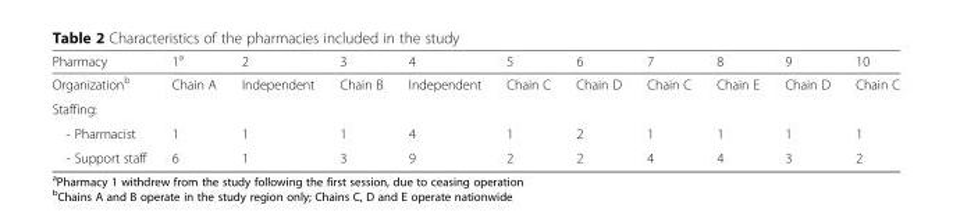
<table><thead><tr><td>Pharmacy</td><td>1<sup>a</sup></td><td>2</td><td>3</td><td>4</td><td>5</td><td>6</td><td>7</td><td>8</td><td>9</td><td>10</td></tr></thead><tbody><tr><td>Organization<sup>b</sup></td><td>Chain A</td><td>Independent</td><td>Chain B</td><td>Independent</td><td>Chain C</td><td>Chain D</td><td>Chain C</td><td>Chain E</td><td>Chain D</td><td>Chain C</td></tr><tr><td colspan="11">Staffing:</td></tr><tr><td>- Pharmacist</td><td>1</td><td>1</td><td>1</td><td>4</td><td>1</td><td>2</td><td>1</td><td>1</td><td>1</td><td>1</td></tr><tr><td>- Support staff</td><td>6</td><td>1</td><td>3</td><td>9</td><td>2</td><td>2</td><td>4</td><td>4</td><td>3</td><td>2</td></tr></tbody></table>